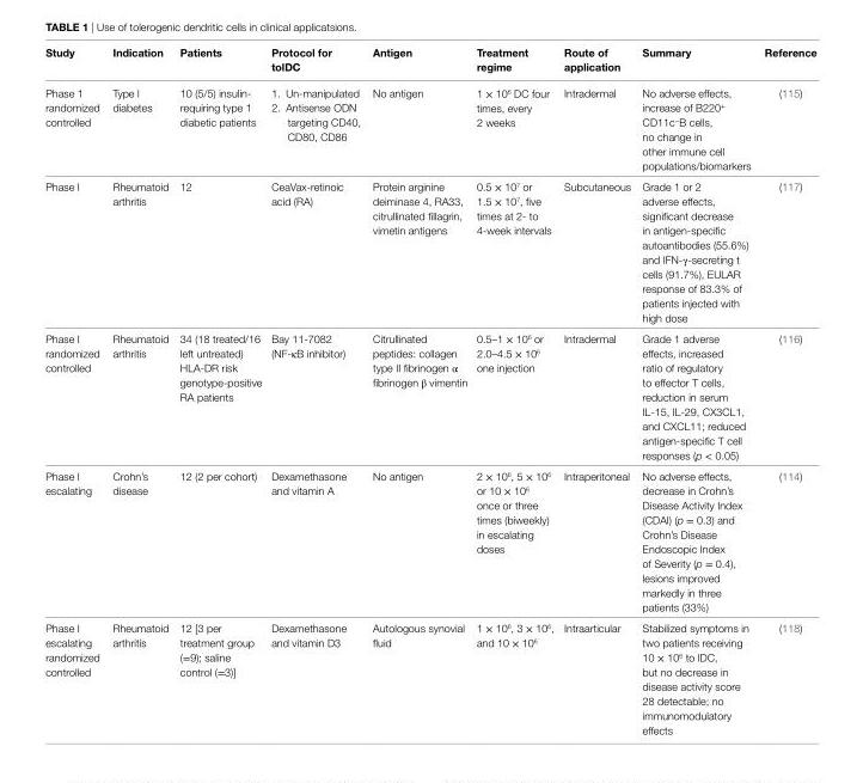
<table><thead><tr><td>Study</td><td>indication</td><td>Patients</td><td>Protocol for tolDC</td><td>Antigen</td><td>Treatment regime</td><td>Route of application</td><td>Summary</td><td>Reference</td></tr></thead><tbody><tr><td>Phase 1 randomized controlled</td><td>Type l diabetes</td><td>10 (5/5) insulin- requiring type 1 diabetic patients</td><td>1. Un-manipulated 2. Antisense ODN targeting CD40, CD80, CD86</td><td>No antigen</td><td>1 × 10<sup>6</sup> DC four times, every 2 weeks</td><td>Intradermal</td><td>No adverse effects, increase of B220<sup>+</sup> CD11c<sup>−</sup>B cells, no change in other immune cell populations/biomarkers</td><td>(115)</td></tr><tr><td>Phase I</td><td>Rheumatoid arthritis</td><td>12</td><td>CeaVax-retinoic acid (RA)</td><td>Protein arginine deiminase 4, RA33, citrullinated fillagrin, vimetin antigens</td><td>0.5 × 10<sup>7</sup> or 1.5 × 10<sup>7</sup>, five times at 2- to 4-week intervals</td><td>Subcutaneous</td><td>Grade 1 or 2 adverse effects, significant decrease in antigen-specific autoantibodies (55.6%) and IFN-γ-secreting t cells (91.7%), EULAR response of 83.3% of patients injected with high dose</td><td>(117)</td></tr><tr><td>Phase I randomized controlled</td><td>Rheumatoid arthritis</td><td>34 (18 treated/16 left untreated) HLA-DR risk genotype-positive RA patients</td><td>Bay 11-7082 (NF-κB inhibitor)</td><td>Citrullinated peptides: collagen type II fibrinogen α fibrinogen β vimentin</td><td>0.5–1 × 10<sup>6</sup> or 2.0–4.5 × 10<sup>6</sup> one injection</td><td>Intradermal</td><td>Grade 1 adverse effects, increased ratio of regulatory to effector T cells, reduction in serum IL-15, IL-29, CX3CL1, and CXCL11; reduced antigen-specific T cell responses (p &lt; 0.05)</td><td>(116)</td></tr><tr><td>Phase I escalating</td><td>Crohn’s disease</td><td>12 (2 per cohort)</td><td>Dexamethasone and vitamin A</td><td>No antigen</td><td>2 × 10<sup>6</sup>, 5 × 10<sup>6</sup> or 10 × 10<sup>6</sup> once or three times (biweekly) in escalating doses</td><td>Intraperitoneal</td><td>No adverse effects, decrease in Crohn’s Disease Activity Index (CDAI) (p = 0.3) and Crohn’s Disease Endoscopic Index of Severity (p = 0.4), lesions improved markedly in three patients (33%)</td><td>(114)</td></tr><tr><td>Phase I escalating randomized controlled</td><td>Rheumatoid arthritis</td><td>12 [3 per treatment group (=9); saline control (=3)]</td><td>Dexamethasone and vitamin D3</td><td>Autologous synovial fluid</td><td>1 × 10<sup>6</sup>, 3 × 10<sup>6</sup>, and 10 × 10<sup>6</sup></td><td>Intraarticular</td><td>Stabilized symptoms in two patients receiving 10 × 10<sup>6</sup> to lDC, but no decrease in disease activity score 28 detectable; no immunomodulatory effects</td><td>(118)</td></tr></tbody></table>